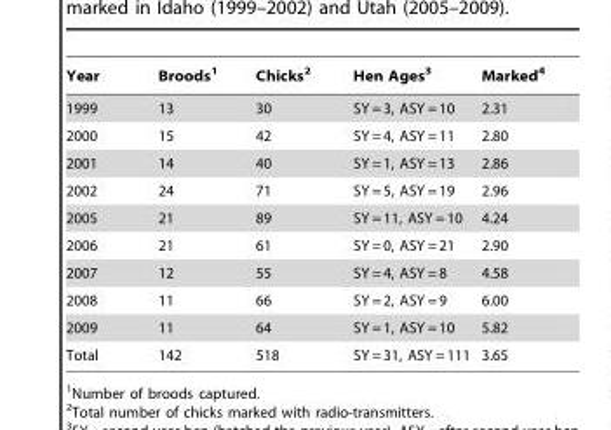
<table><thead><tr><td>Year</td><td>Broods<sup>1</sup></td><td>Chicks<sup>2</sup></td><td>Hen Ages<sup>3</sup></td><td>Marked<sup>4</sup></td></tr></thead><tbody><tr><td>1999</td><td>13</td><td>30</td><td>SY = 3, ASY = 10</td><td>2.31</td></tr><tr><td>2000</td><td>15</td><td>42</td><td>SY = 4, ASY = 11</td><td>2.80</td></tr><tr><td>2001</td><td>14</td><td>40</td><td>SY = 1, ASY = 13</td><td>2.86</td></tr><tr><td>2002</td><td>24</td><td>71</td><td>SY = 5, ASY = 19</td><td>2.96</td></tr><tr><td>2005</td><td>21</td><td>89</td><td>SY = 11, ASY = 10</td><td>4.24</td></tr><tr><td>2006</td><td>21</td><td>61</td><td>SY = 0, ASY = 21</td><td>2.90</td></tr><tr><td>2007</td><td>12</td><td>55</td><td>SY = 4, ASY = 8</td><td>4.58</td></tr><tr><td>2008</td><td>11</td><td>66</td><td>SY = 2, ASY = 9</td><td>6.00</td></tr><tr><td>2009</td><td>11</td><td>64</td><td>SY = 1, ASY = 10</td><td>5.82</td></tr><tr><td>Total</td><td>142</td><td>518</td><td>SY = 31, ASY = 111</td><td>3.65</td></tr></tbody></table>